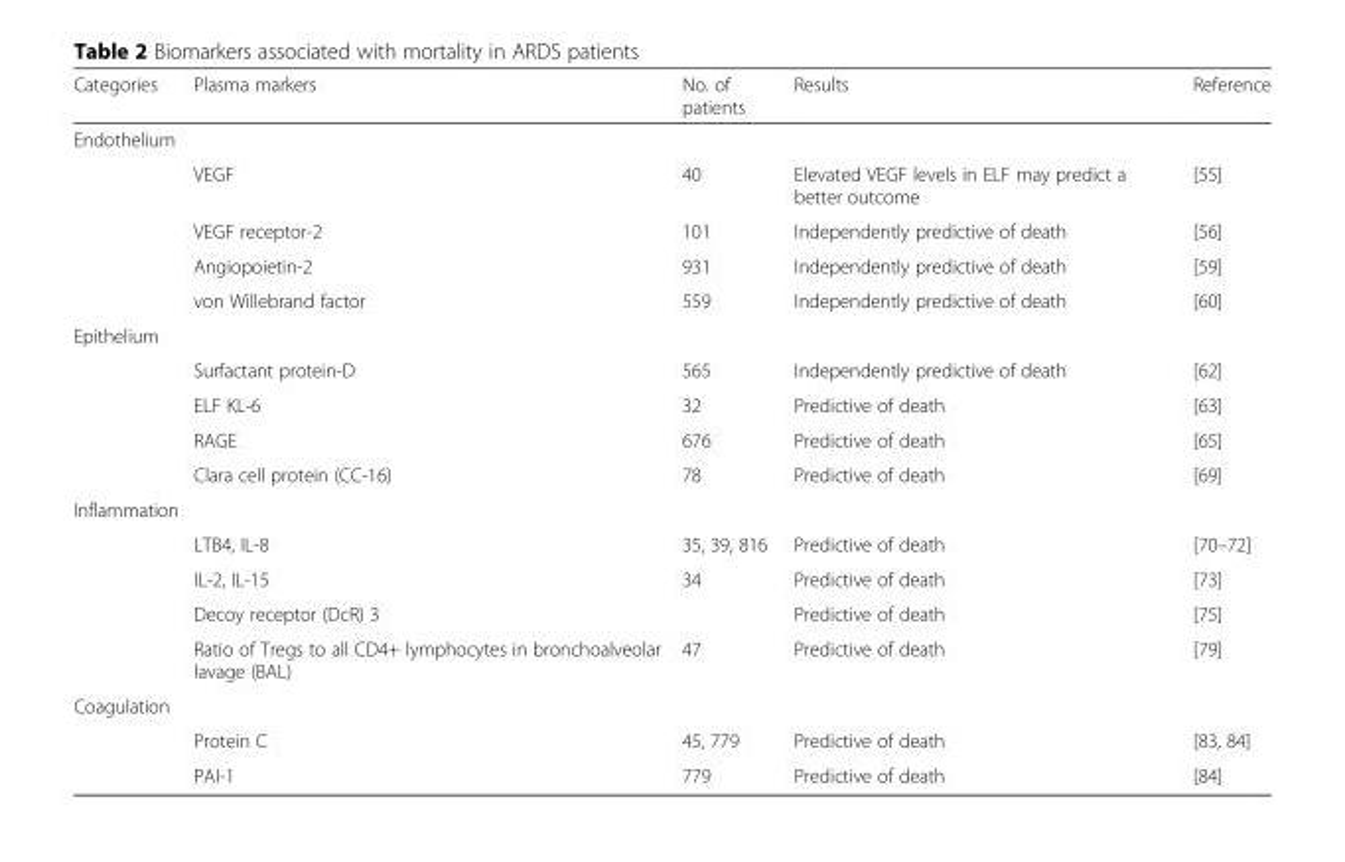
<table><thead><tr><td>Categories</td><td>Plasma markers</td><td>No. of patients</td><td>Results</td><td>Reference</td></tr></thead><tbody><tr><td colspan="5">Endothelium</td></tr><tr><td></td><td>VEGF</td><td>40</td><td>Elevated VEGF levels in ELF may predict a better outcome</td><td>[55]</td></tr><tr><td></td><td>VEGF receptor-2</td><td>101</td><td>Independently predictive of death</td><td>[56]</td></tr><tr><td></td><td>Angiopoietin-2</td><td>931</td><td>Independently predictive of death</td><td>[59]</td></tr><tr><td></td><td>von Willebrand factor</td><td>559</td><td>Independently predictive of death</td><td>[60]</td></tr><tr><td colspan="5">Epithelium</td></tr><tr><td></td><td>Surfactant protein-D</td><td>565</td><td>Independently predictive of death</td><td>[62]</td></tr><tr><td></td><td>ELF KL-6</td><td>32</td><td>Predictive of death</td><td>[63]</td></tr><tr><td></td><td>RAGE</td><td>676</td><td>Predictive of death</td><td>[65]</td></tr><tr><td></td><td>Clara cell protein (CC-16)</td><td>78</td><td>Predictive of death</td><td>[69]</td></tr><tr><td colspan="5">Inflammation</td></tr><tr><td></td><td>LTB4, IL-8</td><td>35, 39, 816</td><td>Predictive of death</td><td>[70–72]</td></tr><tr><td></td><td>IL-2, IL-15</td><td>34</td><td>Predictive of death</td><td>[73]</td></tr><tr><td></td><td>Decoy receptor (DcR) 3</td><td></td><td>Predictive of death</td><td>[75]</td></tr><tr><td></td><td>Ratio of Tregs to all CD4+ lymphocytes in bronchoalveolar lavage (BAL)</td><td>47</td><td>Predictive of death</td><td>[79]</td></tr><tr><td colspan="5">Coagulation</td></tr><tr><td></td><td>Protein C</td><td>45, 779</td><td>Predictive of death</td><td>[83, 84]</td></tr><tr><td></td><td>PAI-1</td><td>779</td><td>Predictive of death</td><td>[84]</td></tr></tbody></table>